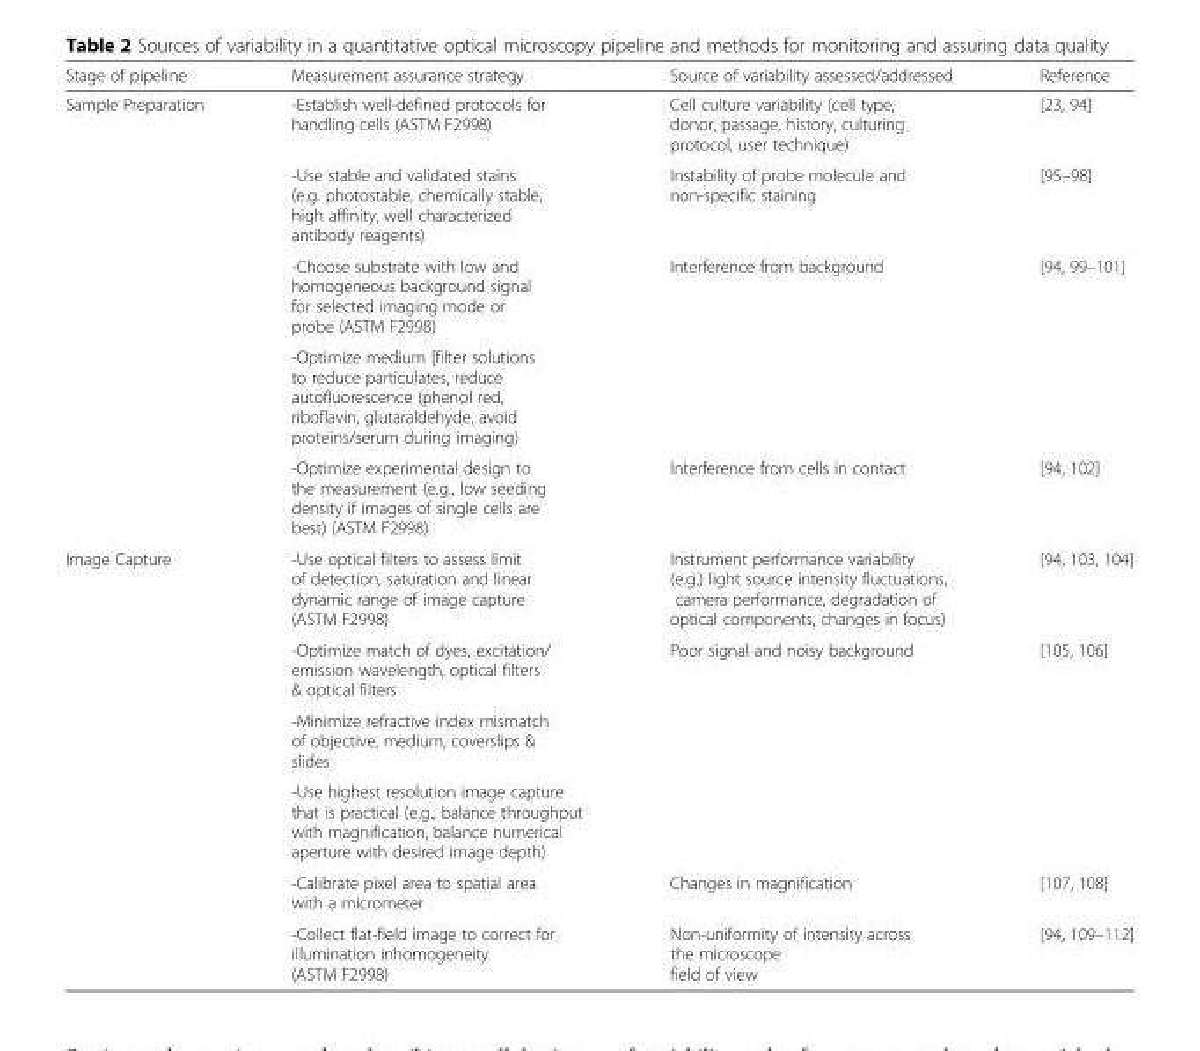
<table><thead><tr><td>Stage of pipeline</td><td>Measurement assurance strategy</td><td>Source of variability assessed/addressed</td><td>Reference</td></tr></thead><tbody><tr><td rowspan="5">Sample Preparation</td><td>-Establish well-defined protocols for handling cells (ASTM F2998)</td><td>Cell culture variability (cell type, donor, passage, history, culturing protocol, user technique)</td><td>[23, 94]</td></tr><tr><td>-Use stable and validated stains (e.g. photostable, chemically stable, high affinity, well characterized antibody reagents)</td><td>Instability of probe molecule and non-specific staining</td><td>[95–98]</td></tr><tr><td>-Choose substrate with low and homogeneous background signal for selected imaging mode or probe (ASTM F2998)</td><td rowspan="2">Interference from background</td><td rowspan="2">[94, 99–101]</td></tr><tr><td>-Optimize medium [filter solutions to reduce particulates, reduce autofluorescence (phenol red, riboflavin, glutaraldehyde, avoid proteins/serum during imaging)</td></tr><tr><td>-Optimize experimental design to the measurement (e.g., low seeding density if images of single cells are best) (ASTM F2998)</td><td>Interference from cells in contact</td><td>[94, 102]</td></tr><tr><td rowspan="6">Image Capture</td><td>-Use optical filters to assess limit of detection, saturation and linear dynamic range of image capture (ASTM F2998)</td><td>Instrument performance variability (e.g.) light source intensity fluctuations, camera performance, degradation of optical components, changes in focus)</td><td>[94, 103, 104]</td></tr><tr><td>-Optimize match of dyes, excitation/ emission wavelength, optical filters &amp; optical filters</td><td rowspan="3">Poor signal and noisy background</td><td rowspan="3">[105, 106]</td></tr><tr><td>-Minimize refractive index mismatch of objective, medium, coverslips &amp; slides</td></tr><tr><td>-Use highest resolution image capture that is practical (e.g., balance throughput with magnification, balance numerical aperture with desired image depth)</td></tr><tr><td>-Calibrate pixel area to spatial area with a micrometer</td><td>Changes in magnification</td><td>[107, 108]</td></tr><tr><td>-Collect flat-field image to correct for illumination inhomogeneity (ASTM F2998)</td><td>Non-uniformity of intensity across the microscope field of view</td><td>[94, 109–112]</td></tr></tbody></table>